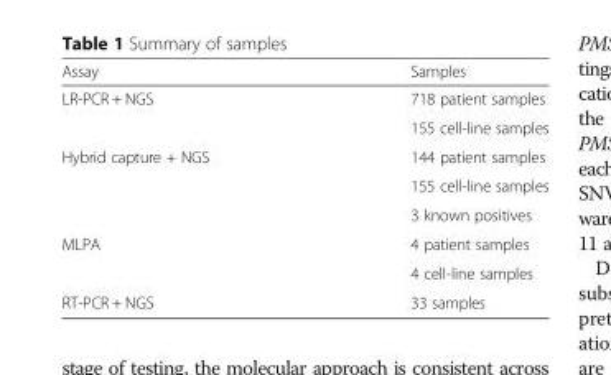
<table><thead><tr><td>Assay</td><td>Samples</td></tr></thead><tbody><tr><td rowspan="2">LR-PCR + NGS</td><td>718 patient samples</td></tr><tr><td>155 cell-line samples</td></tr><tr><td rowspan="3">Hybrid capture + NGS</td><td>144 patient samples</td></tr><tr><td>155 cell-line samples</td></tr><tr><td>3 known positives</td></tr><tr><td rowspan="2">MLPA</td><td>4 patient samples</td></tr><tr><td>4 cell-line samples</td></tr><tr><td>RT-PCR + NGS</td><td>33 samples</td></tr></tbody></table>